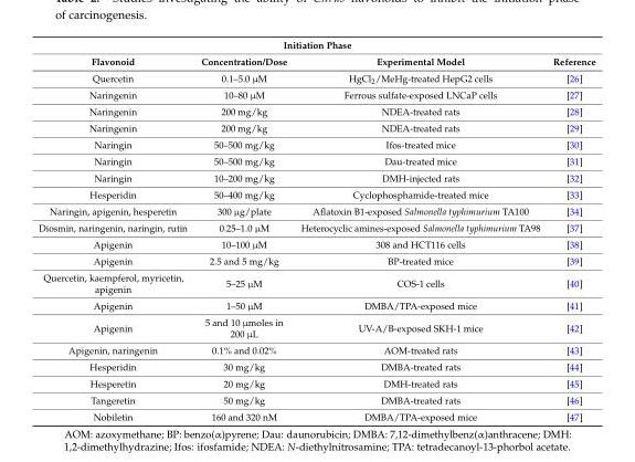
<table><thead><tr><td colspan="4">Initiation Phase</td></tr><tr><td>Flavonoid</td><td>Concentration/Dose</td><td>Experimental Model</td><td>Reference</td></tr></thead><tbody><tr><td>Quercetin</td><td>0.1–5.0 µM</td><td>HgCl<sub>2</sub>/MeHg-treated HepG2 cells</td><td>[26]</td></tr><tr><td>Naringenin</td><td>10–80 µM</td><td>Ferrous sulfate-exposed LNCaP cells</td><td>[27]</td></tr><tr><td>Naringenin</td><td>200 mg/kg</td><td>NDEA-treated rats</td><td>[28]</td></tr><tr><td>Naringenin</td><td>200 mg/kg</td><td>NDEA-treated rats</td><td>[29]</td></tr><tr><td>Naringin</td><td>50–500 mg/kg</td><td>Ifos-treated mice</td><td>[30]</td></tr><tr><td>Naringin</td><td>50–500 mg/kg</td><td>Dau-treated mice</td><td>[31]</td></tr><tr><td>Naringin</td><td>10–200 mg/kg</td><td>DMH-injected rats</td><td>[32]</td></tr><tr><td>Hesperidin</td><td>50–400 mg/kg</td><td>Cyclophosphamide-treated mice</td><td>[33]</td></tr><tr><td>Naringin, apigenin, hesperetin</td><td>300 µg/plate</td><td>Aflatoxin B1-exposed Salmonella typhimurium TA100</td><td>[34]</td></tr><tr><td>Diosmin, naringenin, naringin, rutin</td><td>0.25–1.0 µM</td><td>Heterocyclic amines-exposed Salmonella typhimurium TA98</td><td>[37]</td></tr><tr><td>Apigenin</td><td>10–100 µM</td><td>308 and HCT116 cells</td><td>[38]</td></tr><tr><td>Apigenin</td><td>2.5 and 5 mg/kg</td><td>BP-treated mice</td><td>[39]</td></tr><tr><td>Quercetin, kaempferol, myricetin, apigenin</td><td>5–25 µM</td><td>COS-1 cells</td><td>[40]</td></tr><tr><td>Apigenin</td><td>1–50 µM</td><td>DMBA/TPA-exposed mice</td><td>[41]</td></tr><tr><td>Apigenin</td><td>5 and 10 µmoles in 200 µL</td><td>UV-A/B-exposed SKH-1 mice</td><td>[42]</td></tr><tr><td>Apigenin, naringenin</td><td>0.1% and 0.02%</td><td>AOM-treated rats</td><td>[43]</td></tr><tr><td>Hesperidin</td><td>30 mg/kg</td><td>DMBA-treated rats</td><td>[44]</td></tr><tr><td>Hesperetin</td><td>20 mg/kg</td><td>DMH-treated rats</td><td>[45]</td></tr><tr><td>Tangeretin</td><td>50 mg/kg</td><td>DMBA-treated rats</td><td>[46]</td></tr><tr><td>Nobiletin</td><td>160 and 320 nM</td><td>DMBA/TPA-exposed mice</td><td>[47]</td></tr></tbody></table>